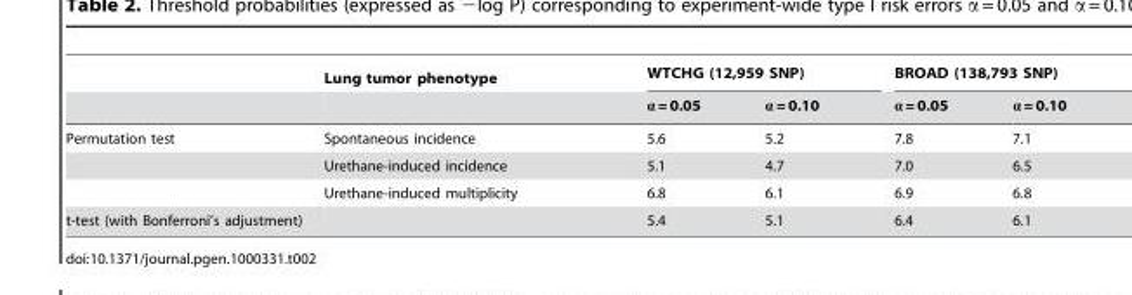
<table><thead><tr><td rowspan="2"></td><td rowspan="2">Lung tumor phenotype</td><td colspan="2">WTCHG (12,959 SNP)</td><td colspan="2">BROAD (138,793 SNP)</td></tr><tr><td>α = 0.05</td><td>α = 0.10</td><td>α = 0.05</td><td>α = 0.10</td></tr></thead><tbody><tr><td rowspan="3">Permutation test</td><td>Spontaneous incidence</td><td>5.6</td><td>5.2</td><td>7.8</td><td>7.1</td></tr><tr><td>Urethane-induced incidence</td><td>5.1</td><td>4.7</td><td>7.0</td><td>6.5</td></tr><tr><td>Urethane-induced multiplicity</td><td>6.8</td><td>6.1</td><td>6.9</td><td>6.8</td></tr><tr><td>t-test (with Bonferroni’s adjustment)</td><td></td><td>5.4</td><td>5.1</td><td>6.4</td><td>6.1</td></tr></tbody></table>